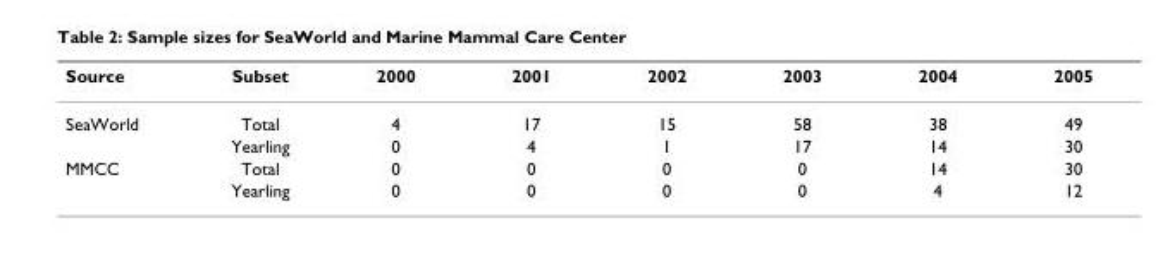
<table><thead><tr><td>Source</td><td>Subset</td><td>2000</td><td>2001</td><td>2002</td><td>2003</td><td>2004</td><td>2005</td></tr></thead><tbody><tr><td rowspan="2">SeaWorld</td><td>Total</td><td>4</td><td>17</td><td>15</td><td>58</td><td>38</td><td>49</td></tr><tr><td>Yearling</td><td>0</td><td>4</td><td>1</td><td>17</td><td>14</td><td>30</td></tr><tr><td rowspan="2">MMCC</td><td>Total</td><td>0</td><td>0</td><td>0</td><td>0</td><td>14</td><td>30</td></tr><tr><td>Yearling</td><td>0</td><td>0</td><td>0</td><td>0</td><td>4</td><td>12</td></tr></tbody></table>